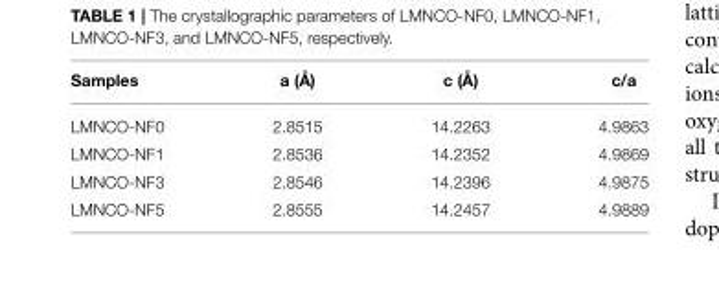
<table><thead><tr><td>Samples</td><td>a (Å)</td><td>c (Å)</td><td>c/a</td></tr></thead><tbody><tr><td>LMNCO-NF0</td><td>2.8515</td><td>14.2263</td><td>4.9863</td></tr><tr><td>LMNCO-NF1</td><td>2.8536</td><td>14.2352</td><td>4.9869</td></tr><tr><td>LMNCO-NF3</td><td>2.8546</td><td>14.2396</td><td>4.9875</td></tr><tr><td>LMNCO-NF5</td><td>2.8555</td><td>14.2457</td><td>4.9889</td></tr></tbody></table>